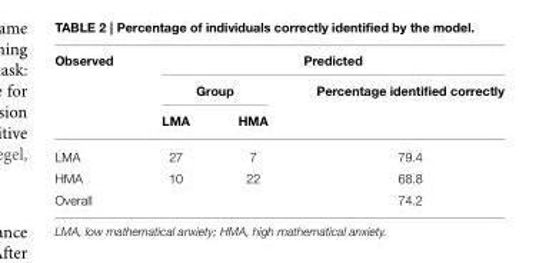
<table><thead><tr><td rowspan="3">Observed</td><td colspan="3">Predicted</td></tr><tr><td colspan="2">Group</td><td rowspan="2">Percentage identified correctly</td></tr><tr><td>LMA</td><td>HMA</td></tr></thead><tbody><tr><td>LMA</td><td>27</td><td>7</td><td>79.4</td></tr><tr><td>HMA</td><td>10</td><td>22</td><td>68.8</td></tr><tr><td>Overall</td><td></td><td></td><td>74.2</td></tr></tbody></table>